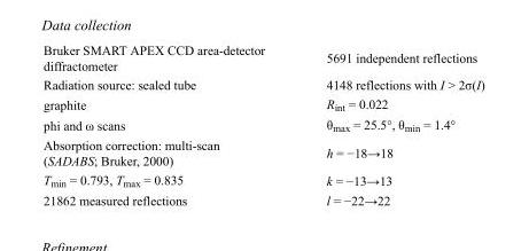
<table><tbody><tr><td>Bruker SMART APEX CCD area-detector diffractometer</td><td>5691 independent reflections</td></tr><tr><td>Radiation source: sealed tube</td><td>4148 reflections with I &gt; 2σ(I)</td></tr><tr><td>graphite</td><td>R<sub>int</sub> = 0.022</td></tr><tr><td>phi and ω scans</td><td>θ<sub>max</sub> = 25.5°, θ<sub>min</sub> = 1.4°</td></tr><tr><td>Absorption correction: multi-scan (SADABS; Bruker, 2000)</td><td>h = −18→18</td></tr><tr><td>T<sub>min</sub> = 0.793, T<sub>max</sub> = 0.835</td><td>k = −13→13</td></tr><tr><td>21862 measured reflections</td><td>l = −22→22</td></tr></tbody></table>